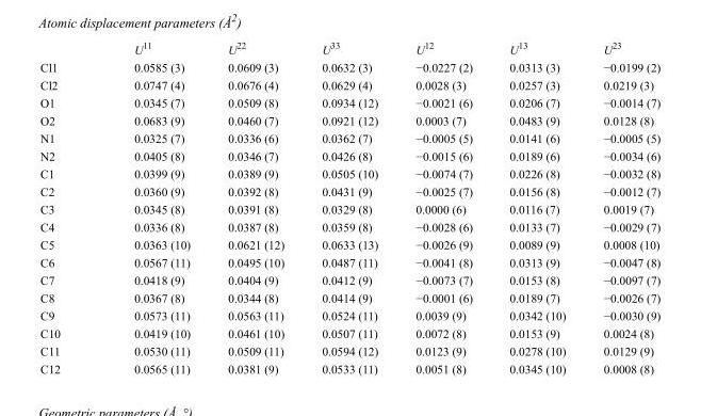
<table><thead><tr><td></td><td>U<sup>11</sup></td><td>U<sup>22</sup></td><td>U<sup>33</sup></td><td>U<sup>12</sup></td><td>U<sup>13</sup></td><td>U<sup>23</sup></td></tr></thead><tbody><tr><td>Cl1</td><td>0.0585 (3)</td><td>0.0609 (3)</td><td>0.0632 (3)</td><td>−0.0227 (2)</td><td>0.0313 (3)</td><td>−0.0199 (2)</td></tr><tr><td>Cl2</td><td>0.0747 (4)</td><td>0.0676 (4)</td><td>0.0629 (4)</td><td>0.0028 (3)</td><td>0.0257 (3)</td><td>0.0219 (3)</td></tr><tr><td>O1</td><td>0.0345 (7)</td><td>0.0509 (8)</td><td>0.0934 (12)</td><td>−0.0021 (6)</td><td>0.0206 (7)</td><td>−0.0014 (7)</td></tr><tr><td>O2</td><td>0.0683 (9)</td><td>0.0460 (7)</td><td>0.0921 (12)</td><td>0.0003 (7)</td><td>0.0483 (9)</td><td>0.0128 (8)</td></tr><tr><td>N1</td><td>0.0325 (7)</td><td>0.0336 (6)</td><td>0.0362 (7)</td><td>−0.0005 (5)</td><td>0.0141 (6)</td><td>−0.0005 (5)</td></tr><tr><td>N2</td><td>0.0405 (8)</td><td>0.0346 (7)</td><td>0.0426 (8)</td><td>−0.0015 (6)</td><td>0.0189 (6)</td><td>−0.0034 (6)</td></tr><tr><td>C1</td><td>0.0399 (9)</td><td>0.0389 (9)</td><td>0.0505 (10)</td><td>−0.0074 (7)</td><td>0.0226 (8)</td><td>−0.0032 (8)</td></tr><tr><td>C2</td><td>0.0360 (9)</td><td>0.0392 (8)</td><td>0.0431 (9)</td><td>−0.0025 (7)</td><td>0.0156 (8)</td><td>−0.0012 (7)</td></tr><tr><td>C3</td><td>0.0345 (8)</td><td>0.0391 (8)</td><td>0.0329 (8)</td><td>0.0000 (6)</td><td>0.0116 (7)</td><td>0.0019 (7)</td></tr><tr><td>C4</td><td>0.0336 (8)</td><td>0.0387 (8)</td><td>0.0359 (8)</td><td>−0.0028 (6)</td><td>0.0133 (7)</td><td>−0.0029 (7)</td></tr><tr><td>C5</td><td>0.0363 (10)</td><td>0.0621 (12)</td><td>0.0633 (13)</td><td>−0.0026 (9)</td><td>0.0089 (9)</td><td>0.0008 (10)</td></tr><tr><td>C6</td><td>0.0567 (11)</td><td>0.0495 (10)</td><td>0.0487 (11)</td><td>−0.0041 (8)</td><td>0.0313 (9)</td><td>−0.0047 (8)</td></tr><tr><td>C7</td><td>0.0418 (9)</td><td>0.0404 (9)</td><td>0.0412 (9)</td><td>−0.0073 (7)</td><td>0.0153 (8)</td><td>−0.0097 (7)</td></tr><tr><td>C8</td><td>0.0367 (8)</td><td>0.0344 (8)</td><td>0.0414 (9)</td><td>−0.0001 (6)</td><td>0.0189 (7)</td><td>−0.0026 (7)</td></tr><tr><td>C9</td><td>0.0573 (11)</td><td>0.0563 (11)</td><td>0.0524 (11)</td><td>0.0039 (9)</td><td>0.0342 (10)</td><td>−0.0030 (9)</td></tr><tr><td>C10</td><td>0.0419 (10)</td><td>0.0461 (10)</td><td>0.0507 (11)</td><td>0.0072 (8)</td><td>0.0153 (9)</td><td>0.0024 (8)</td></tr><tr><td>C11</td><td>0.0530 (11)</td><td>0.0509 (11)</td><td>0.0594 (12)</td><td>0.0123 (9)</td><td>0.0278 (10)</td><td>0.0129 (9)</td></tr><tr><td>C12</td><td>0.0565 (11)</td><td>0.0381 (9)</td><td>0.0533 (11)</td><td>0.0051 (8)</td><td>0.0345 (10)</td><td>0.0008 (8)</td></tr></tbody></table>